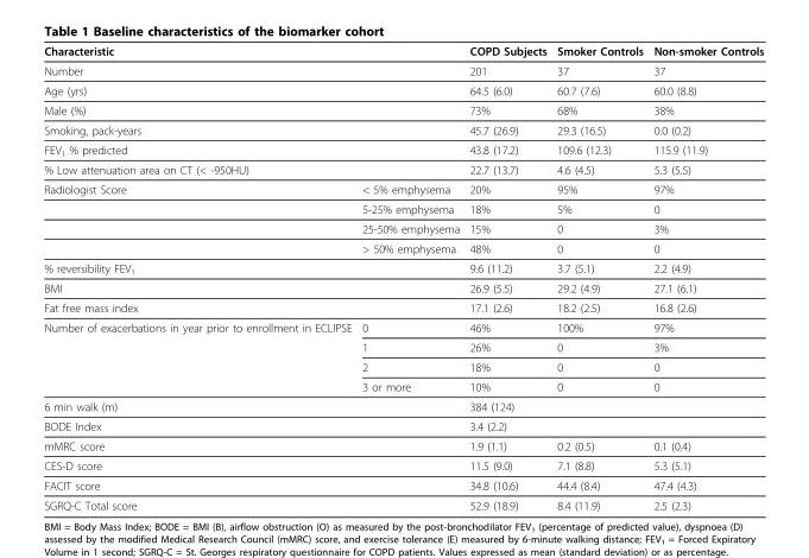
<table><thead><tr><td colspan="2">Characteristic</td><td>COPD Subjects</td><td>Smoker Controls</td><td>Non-smoker Controls</td></tr></thead><tbody><tr><td colspan="2">Number</td><td>201</td><td>37</td><td>37</td></tr><tr><td colspan="2">Age (yrs)</td><td>64.5 (6.0)</td><td>60.7 (7.6)</td><td>60.0 (8.8)</td></tr><tr><td colspan="2">Male (%)</td><td>73%</td><td>68%</td><td>38%</td></tr><tr><td colspan="2">Smoking, pack-years</td><td>45.7 (26.9)</td><td>29.3 (16.5)</td><td>0.0 (0.2)</td></tr><tr><td colspan="2">FEV<sub>1</sub> % predicted</td><td>43.8 (17.2)</td><td>109.6 (12.3)</td><td>115.9 (11.9)</td></tr><tr><td colspan="2">% Low attenuation area on CT (&lt; -950HU)</td><td>22.7 (13.7)</td><td>4.6 (4.5)</td><td>5.3 (5.5)</td></tr><tr><td rowspan="4">Radiologist Score</td><td>&lt; 5% emphysema</td><td>20%</td><td>95%</td><td>97%</td></tr><tr><td>5-25% emphysema</td><td>18%</td><td>5%</td><td>0</td></tr><tr><td>25-50% emphysema</td><td>15%</td><td>0</td><td>3%</td></tr><tr><td>&gt; 50% emphysema</td><td>48%</td><td>0</td><td>0</td></tr><tr><td colspan="2">% reversibility FEV<sub>1</sub></td><td>9.6 (11.2)</td><td>3.7 (5.1)</td><td>2.2 (4.9)</td></tr><tr><td colspan="2">BMI</td><td>26.9 (5.5)</td><td>29.2 (4.9)</td><td>27.1 (6.1)</td></tr><tr><td colspan="2">Fat free mass index</td><td>17.1 (2.6)</td><td>18.2 (2.5)</td><td>16.8 (2.6)</td></tr><tr><td rowspan="4">Number of exacerbations in year prior to enrollment in ECLIPSE</td><td>0</td><td>46%</td><td>100%</td><td>97%</td></tr><tr><td>1</td><td>26%</td><td>0</td><td>3%</td></tr><tr><td>2</td><td>18%</td><td>0</td><td>0</td></tr><tr><td>3 or more</td><td>10%</td><td>0</td><td>0</td></tr><tr><td colspan="2">6 min walk (m)</td><td>384 (124)</td><td></td><td></td></tr><tr><td colspan="2">BODE Index</td><td>3.4 (2.2)</td><td></td><td></td></tr><tr><td colspan="2">mMRC score</td><td>1.9 (1.1)</td><td>0.2 (0.5)</td><td>0.1 (0.4)</td></tr><tr><td colspan="2">CES-D score</td><td>11.5 (9.0)</td><td>7.1 (8.8)</td><td>5.3 (5.1)</td></tr><tr><td colspan="2">FACIT score</td><td>34.8 (10.6)</td><td>44.4 (8.4)</td><td>47.4 (4.3)</td></tr><tr><td colspan="2">SGRQ-C Total score</td><td>52.9 (18.9)</td><td>8.4 (11.9)</td><td>2.5 (2.3)</td></tr></tbody></table>